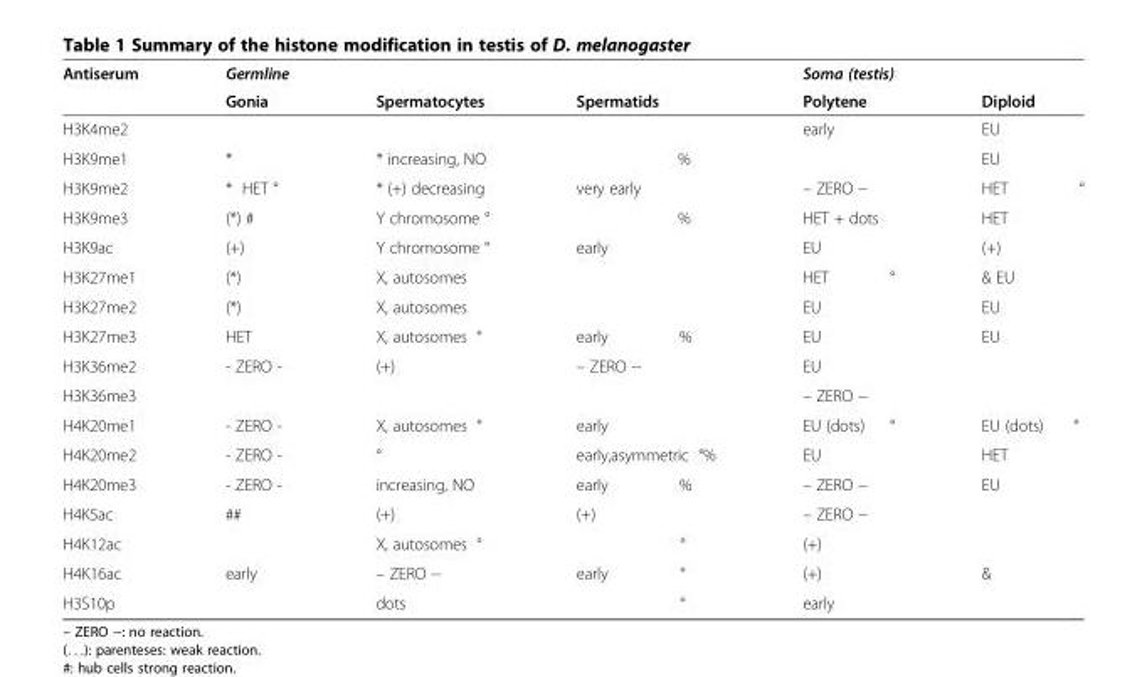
<table><thead><tr><td rowspan="2">Antiserum</td><td rowspan="2">Germline Gonia</td><td rowspan="2">Spermatocytes</td><td rowspan="2">Spermatids</td><td rowspan="2">Soma (testis) Polytene</td><td rowspan="2">Diploid</td></tr><tr></tr></thead><tbody><tr><td>H3K4me2</td><td></td><td></td><td></td><td>early</td><td>EU</td></tr><tr><td>H3K9me1</td><td>*</td><td>* increasing, NO</td><td>%</td><td></td><td>EU</td></tr><tr><td>H3K9me2</td><td>* HET °</td><td>* (+) decreasing</td><td>very early</td><td>– ZERO --</td><td>HET °</td></tr><tr><td>H3K9me3</td><td>(*) #</td><td>Y chromosome °</td><td>%</td><td>HET + dots</td><td>HET</td></tr><tr><td>H3K9ac</td><td>(+)</td><td>Y chromosome °</td><td>early</td><td>EU</td><td>(+)</td></tr><tr><td>H3K27me1</td><td>(*)</td><td>X, autosomes</td><td></td><td>HET °</td><td>&amp; EU</td></tr><tr><td>H3K27me2</td><td>(*)</td><td>X, autosomes</td><td></td><td>EU</td><td>EU</td></tr><tr><td>H3K27me3</td><td>HET</td><td>X, autosomes °</td><td>early %</td><td>EU</td><td>EU</td></tr><tr><td>H3K36me2</td><td>- ZERO -</td><td>(+)</td><td>– ZERO --</td><td>EU</td><td></td></tr><tr><td>H3K36me3</td><td></td><td></td><td></td><td>– ZERO --</td><td></td></tr><tr><td>H4K20me1</td><td>- ZERO -</td><td>X, autosomes °</td><td>early</td><td>EU (dots) °</td><td>EU (dots) °</td></tr><tr><td>H4K20me2</td><td>- ZERO -</td><td>°</td><td>early,asymmetric °%</td><td>EU</td><td>HET</td></tr><tr><td>H4K20me3</td><td>- ZERO -</td><td>increasing, NO</td><td>early %</td><td>– ZERO --</td><td>EU</td></tr><tr><td>H4K5ac</td><td>##</td><td>(+)</td><td>(+)</td><td>– ZERO --</td><td></td></tr><tr><td>H4K12ac</td><td></td><td>X, autosomes °</td><td>°</td><td>(+)</td><td></td></tr><tr><td>H4K16ac</td><td>early</td><td>– ZERO --</td><td>early °</td><td>(+)</td><td>&amp;</td></tr><tr><td>H3S10p</td><td></td><td>dots</td><td>°</td><td>early</td><td></td></tr></tbody></table>